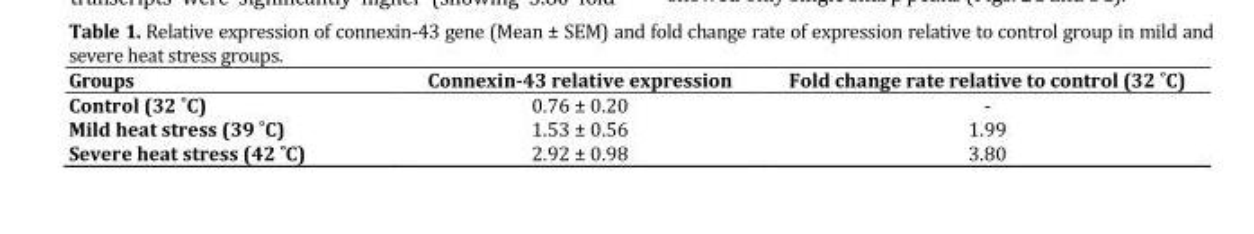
<table><thead><tr><td>Groups</td><td>Connexin-43 relative expression</td><td>Fold change rate relative to control (32 ˚C)</td></tr></thead><tbody><tr><td>Control (32 ˚C)</td><td>0.76 ± 0.20</td><td>-</td></tr><tr><td>Mild heat stress (39 ˚C)</td><td>1.53 ± 0.56</td><td>1.99</td></tr><tr><td>Severe heat stress (42 ˚C)</td><td>2.92 ± 0.98</td><td>3.80</td></tr></tbody></table>